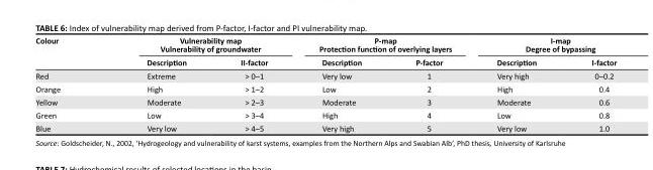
<table><thead><tr><td rowspan="2">Colour</td><td colspan="2">Vulnerability map Vulnerability of groundwater</td><td colspan="2">P-map Protection function of overlying layers</td><td colspan="2">I-map Degree of bypassing</td></tr><tr><td>Description</td><td>II-factor</td><td>Description</td><td>P-factor</td><td>Description</td><td>I-factor</td></tr></thead><tbody><tr><td>Red</td><td>Extreme</td><td>&gt; 0–1</td><td>Very low</td><td>1</td><td>Very high</td><td>0–0.2</td></tr><tr><td>Orange</td><td>High</td><td>&gt; 1–2</td><td>Low</td><td>2</td><td>High</td><td>0.4</td></tr><tr><td>Yellow</td><td>Moderate</td><td>&gt; 2–3</td><td>Moderate</td><td>3</td><td>Moderate</td><td>0.6</td></tr><tr><td>Green</td><td>Low</td><td>&gt; 3–4</td><td>High</td><td>4</td><td>Low</td><td>0.8</td></tr><tr><td>Blue</td><td>Very low</td><td>&gt; 4–5</td><td>Very high</td><td>5</td><td>Very low</td><td>1.0</td></tr></tbody></table>